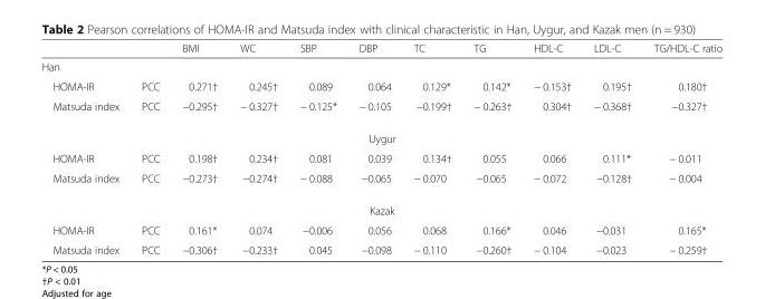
<table><thead><tr><td></td><td></td><td>BMI</td><td>WC</td><td>SBP</td><td>DBP</td><td>TC</td><td>TG</td><td>HDL-C</td><td>LDL-C</td><td>TG/HDL-C ratio</td></tr></thead><tbody><tr><td colspan="11">Han</td></tr><tr><td>HOMA-IR</td><td>PCC</td><td>0.271†</td><td>0.245†</td><td>0.089</td><td>0.064</td><td>0.129*</td><td>0.142*</td><td>− 0.153†</td><td>0.195†</td><td>0.180†</td></tr><tr><td>Matsuda index</td><td>PCC</td><td>−0.295†</td><td>− 0.327†</td><td>− 0.125*</td><td>− 0.105</td><td>−0.199†</td><td>− 0.263†</td><td>0.304†</td><td>− 0.368†</td><td>−0.327†</td></tr><tr><td colspan="11">Uygur</td></tr><tr><td>HOMA-IR</td><td>PCC</td><td>0.198†</td><td>0.234†</td><td>0.081</td><td>0.039</td><td>0.134†</td><td>0.055</td><td>0.066</td><td>0.111*</td><td>− 0.011</td></tr><tr><td>Matsuda index</td><td>PCC</td><td>−0.273†</td><td>−0.274†</td><td>− 0.088</td><td>−0.065</td><td>− 0.070</td><td>−0.065</td><td>− 0.072</td><td>−0.128†</td><td>− 0.004</td></tr><tr><td colspan="11">Kazak</td></tr><tr><td>HOMA-IR</td><td>PCC</td><td>0.161*</td><td>0.074</td><td>−0.006</td><td>0.056</td><td>0.068</td><td>0.166*</td><td>0.046</td><td>−0.031</td><td>0.165*</td></tr><tr><td>Matsuda index</td><td>PCC</td><td>−0.306†</td><td>−0.233†</td><td>0.045</td><td>−0.098</td><td>− 0.110</td><td>−0.260†</td><td>− 0.104</td><td>−0.023</td><td>− 0.259†</td></tr></tbody></table>